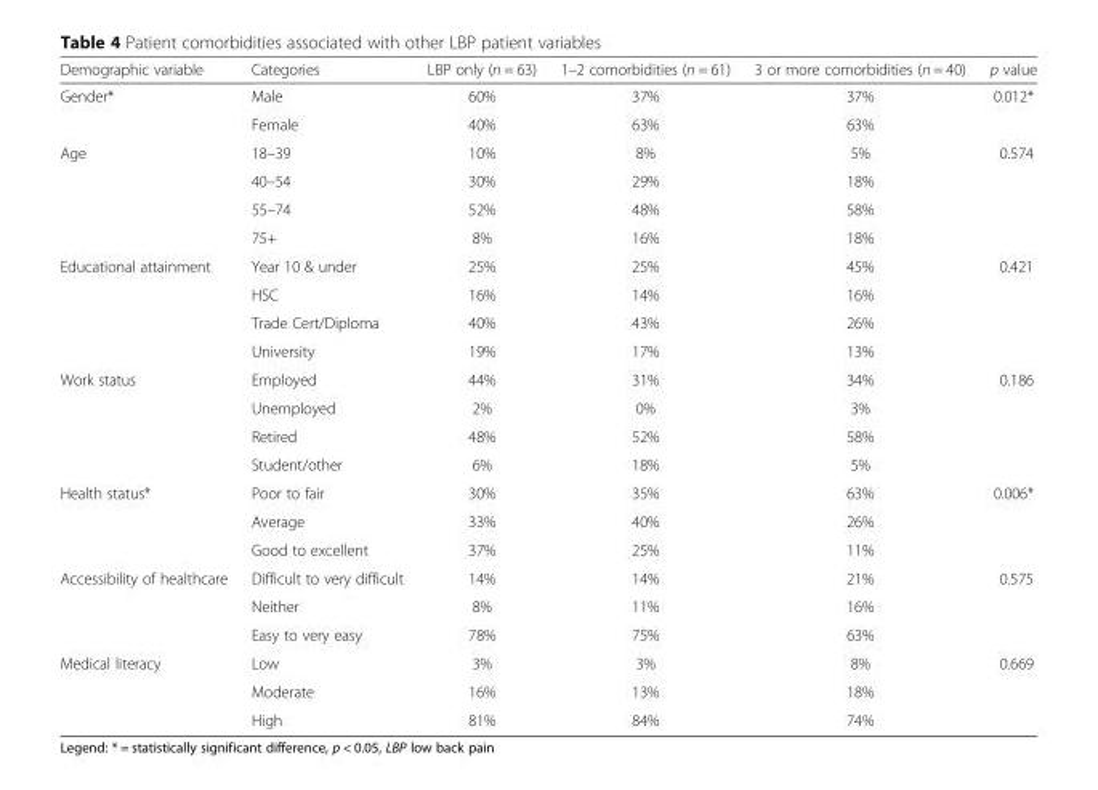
<table><thead><tr><td>Demographic variable</td><td>Categories</td><td>LBP only (n = 63)</td><td>1–2 comorbidities (n = 61)</td><td>3 or more comorbidities (n = 40)</td><td>p value</td></tr></thead><tbody><tr><td rowspan="2">Gender*</td><td>Male</td><td>60%</td><td>37%</td><td>37%</td><td rowspan="2">0.012*</td></tr><tr><td>Female</td><td>40%</td><td>63%</td><td>63%</td></tr><tr><td rowspan="4">Age</td><td>18–39</td><td>10%</td><td>8%</td><td>5%</td><td rowspan="4">0.574</td></tr><tr><td>40–54</td><td>30%</td><td>29%</td><td>18%</td></tr><tr><td>55–74</td><td>52%</td><td>48%</td><td>58%</td></tr><tr><td>75+</td><td>8%</td><td>16%</td><td>18%</td></tr><tr><td rowspan="4">Educational attainment</td><td>Year 10 &amp; under</td><td>25%</td><td>25%</td><td>45%</td><td rowspan="4">0.421</td></tr><tr><td>HSC</td><td>16%</td><td>14%</td><td>16%</td></tr><tr><td>Trade Cert/Diploma</td><td>40%</td><td>43%</td><td>26%</td></tr><tr><td>University</td><td>19%</td><td>17%</td><td>13%</td></tr><tr><td rowspan="4">Work status</td><td>Employed</td><td>44%</td><td>31%</td><td>34%</td><td rowspan="4">0.186</td></tr><tr><td>Unemployed</td><td>2%</td><td>0%</td><td>3%</td></tr><tr><td>Retired</td><td>48%</td><td>52%</td><td>58%</td></tr><tr><td>Student/other</td><td>6%</td><td>18%</td><td>5%</td></tr><tr><td rowspan="3">Health status*</td><td>Poor to fair</td><td>30%</td><td>35%</td><td>63%</td><td rowspan="3">0.006*</td></tr><tr><td>Average</td><td>33%</td><td>40%</td><td>26%</td></tr><tr><td>Good to excellent</td><td>37%</td><td>25%</td><td>11%</td></tr><tr><td rowspan="3">Accessibility of healthcare</td><td>Difficult to very difficult</td><td>14%</td><td>14%</td><td>21%</td><td rowspan="3">0.575</td></tr><tr><td>Neither</td><td>8%</td><td>11%</td><td>16%</td></tr><tr><td>Easy to very easy</td><td>78%</td><td>75%</td><td>63%</td></tr><tr><td rowspan="3">Medical literacy</td><td>Low</td><td>3%</td><td>3%</td><td>8%</td><td rowspan="3">0.669</td></tr><tr><td>Moderate</td><td>16%</td><td>13%</td><td>18%</td></tr><tr><td>High</td><td>81%</td><td>84%</td><td>74%</td></tr></tbody></table>